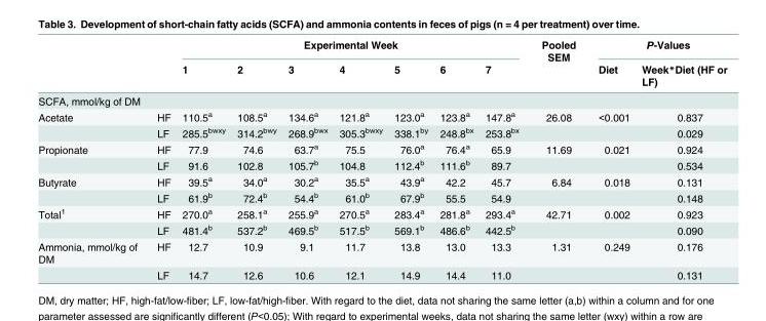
<table><thead><tr><td rowspan="2"></td><td rowspan="2"></td><td colspan="7">Experimental Week</td><td rowspan="2">Pooled SEM</td><td colspan="2">P-Values</td></tr><tr><td>1</td><td>2</td><td>3</td><td>4</td><td>5</td><td>6</td><td>7</td><td>Diet</td><td>Week*Diet (HF or LF)</td></tr></thead><tbody><tr><td colspan="12">SCFA, mmol/kg of DM</td></tr><tr><td rowspan="2">Acetate</td><td>HF</td><td>110.5<sup>a</sup></td><td>108.5<sup>a</sup></td><td>134.6<sup>a</sup></td><td>121.8<sup>a</sup></td><td>123.0<sup>a</sup></td><td>123.8<sup>a</sup></td><td>147.8<sup>a</sup></td><td>26.08</td><td>&lt;0.001</td><td>0.837</td></tr><tr><td>LF</td><td>285.5<sup>bwxy</sup></td><td>314.2<sup>bwy</sup></td><td>268.9<sup>bwx</sup></td><td>305.3<sup>bwxy</sup></td><td>338.1<sup>by</sup></td><td>248.8<sup>bx</sup></td><td>253.8<sup>bx</sup></td><td></td><td></td><td>0.029</td></tr><tr><td rowspan="2">Propionate</td><td>HF</td><td>77.9</td><td>74.6</td><td>63.7<sup>a</sup></td><td>75.5</td><td>76.0<sup>a</sup></td><td>76.4<sup>a</sup></td><td>65.9</td><td>11.69</td><td>0.021</td><td>0.924</td></tr><tr><td>LF</td><td>91.6</td><td>102.8</td><td>105.7<sup>b</sup></td><td>104.8</td><td>112.4<sup>b</sup></td><td>111.6<sup>b</sup></td><td>89.7</td><td></td><td></td><td>0.534</td></tr><tr><td rowspan="2">Butyrate</td><td>HF</td><td>39.5<sup>a</sup></td><td>34.0<sup>a</sup></td><td>30.2<sup>a</sup></td><td>35.5<sup>a</sup></td><td>43.9<sup>a</sup></td><td>42.2</td><td>45.7</td><td>6.84</td><td>0.018</td><td>0.131</td></tr><tr><td>LF</td><td>61.9<sup>b</sup></td><td>72.4<sup>b</sup></td><td>54.4<sup>b</sup></td><td>61.0<sup>b</sup></td><td>67.9<sup>b</sup></td><td>55.5</td><td>54.9</td><td></td><td></td><td>0.148</td></tr><tr><td rowspan="2">Total<sup>1</sup></td><td>HF</td><td>270.0<sup>a</sup></td><td>258.1<sup>a</sup></td><td>255.9<sup>a</sup></td><td>270.5<sup>a</sup></td><td>283.4<sup>a</sup></td><td>281.8<sup>a</sup></td><td>293.4<sup>a</sup></td><td>42.71</td><td>0.002</td><td>0.923</td></tr><tr><td>LF</td><td>481.4<sup>b</sup></td><td>537.2<sup>b</sup></td><td>469.5<sup>b</sup></td><td>517.5<sup>b</sup></td><td>569.1<sup>b</sup></td><td>486.6<sup>b</sup></td><td>442.5<sup>b</sup></td><td></td><td></td><td>0.090</td></tr><tr><td rowspan="2">Ammonia, mmol/kg of DM</td><td>HF</td><td>12.7</td><td>10.9</td><td>9.1</td><td>11.7</td><td>13.8</td><td>13.0</td><td>13.3</td><td>1.31</td><td>0.249</td><td>0.176</td></tr><tr><td>LF</td><td>14.7</td><td>12.6</td><td>10.6</td><td>12.1</td><td>14.9</td><td>14.4</td><td>11.0</td><td></td><td></td><td>0.131</td></tr></tbody></table>